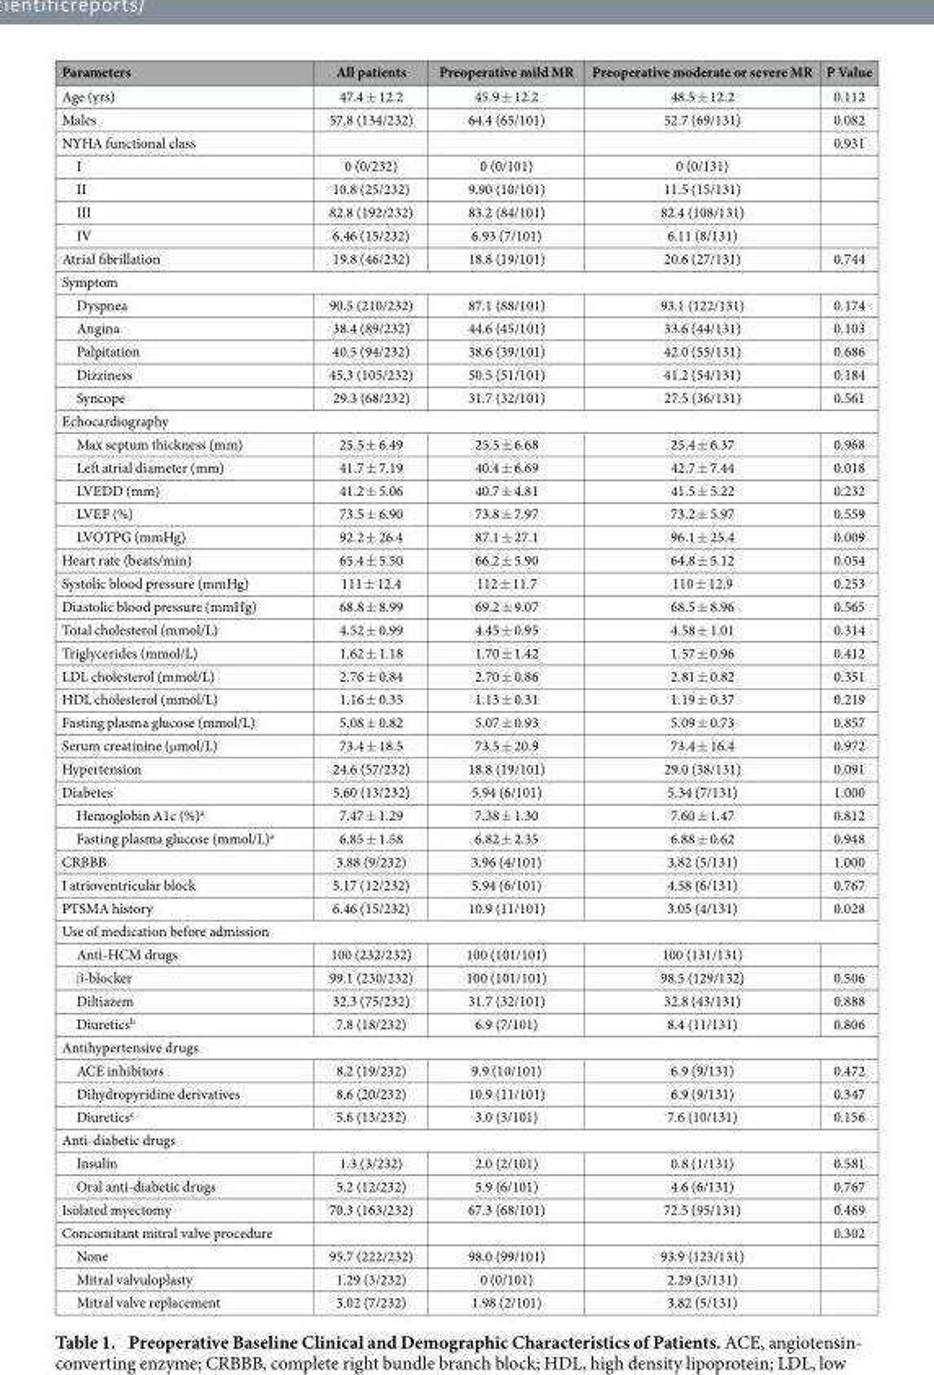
<table><thead><tr><td>Parameters</td><td>All patients</td><td>Preoperative mild MR</td><td>Preoperative moderate or severe MR</td><td>P Value</td></tr></thead><tbody><tr><td>Age (yrs)</td><td>47.4 ± 12.2</td><td>45.9 ± 12.2</td><td>48.5 ± 12.2</td><td>0.112</td></tr><tr><td>Males</td><td>57.8 (134/232)</td><td>64.4 (65/101)</td><td>52.7 (69/131)</td><td>0.082</td></tr><tr><td>NYHA functional class</td><td></td><td></td><td></td><td>0.931</td></tr><tr><td>I</td><td>0 (0/232)</td><td>0 (0/101)</td><td>0 (0/131)</td><td></td></tr><tr><td>II</td><td>10.8 (25/232)</td><td>9.90 (10/101)</td><td>11.5 (15/131)</td><td></td></tr><tr><td>III</td><td>82.8 (192/232)</td><td>83.2 (84/101)</td><td>82.4 (108/131)</td><td></td></tr><tr><td>IV</td><td>6.46 (15/232)</td><td>6.93 (7/101)</td><td>6.11 (8/131)</td><td></td></tr><tr><td>Atrial fibrillation</td><td>19.8 (46/232)</td><td>18.8 (19/101)</td><td>20.6 (27/131)</td><td>0.744</td></tr><tr><td colspan="5">Symptom</td></tr><tr><td>Dyspnea</td><td>90.5 (210/232)</td><td>87.1 (88/101)</td><td>93.1 (122/131)</td><td>0.174</td></tr><tr><td>Angina</td><td>38.4 (89/232)</td><td>44.6 (45/101)</td><td>33.6 (44/131)</td><td>0.103</td></tr><tr><td>Palpitation</td><td>40.5 (94/232)</td><td>38.6 (39/101)</td><td>42.0 (55/131)</td><td>0.686</td></tr><tr><td>Dizziness</td><td>45.3 (105/232)</td><td>50.5 (51/101)</td><td>41.2 (54/131)</td><td>0.184</td></tr><tr><td>Syncope</td><td>29.3 (68/232)</td><td>31.7 (32/101)</td><td>27.5 (36/131)</td><td>0.561</td></tr><tr><td colspan="5">Echocardiography</td></tr><tr><td>Max septum thickness (mm)</td><td>25.5 ± 6.49</td><td>25.5 ± 6.68</td><td>25.4 ± 6.37</td><td>0.968</td></tr><tr><td>Left atrial diameter (mm)</td><td>41.7 ± 7.19</td><td>40.4 ± 6.69</td><td>42.7 ± 7.44</td><td>0.018</td></tr><tr><td>LVEDD (mm)</td><td>41.2 ± 5.06</td><td>40.7 ± 4.81</td><td>41.5 ± 5.22</td><td>0.232</td></tr><tr><td>LVEF (%)</td><td>73.5 ± 6.90</td><td>73.8 ± 7.97</td><td>73.2 ± 5.97</td><td>0.559</td></tr><tr><td>LVOTPG (mmHg)</td><td>92.2 ± 26.4</td><td>87.1 ± 27.1</td><td>96.1 ± 25.4</td><td>0.009</td></tr><tr><td>Heart rate (beats/min)</td><td>65.4 ± 5.50</td><td>66.2 ± 5.90</td><td>64.8 ± 5.12</td><td>0.054</td></tr><tr><td>Systolic blood pressure (mmHg)</td><td>111 ± 12.4</td><td>112 ± 11.7</td><td>110 ± 12.9</td><td>0.253</td></tr><tr><td>Diastolic blood pressure (mmHg)</td><td>68.8 ± 8.99</td><td>69.2 ± 9.07</td><td>68.5 ± 8.96</td><td>0.565</td></tr><tr><td>Total cholesterol (mmol/L)</td><td>4.52 ± 0.99</td><td>4.45 ± 0.95</td><td>4.58 ± 1.01</td><td>0.314</td></tr><tr><td>Triglycerides (mmol/L)</td><td>1.62 ± 1.18</td><td>1.70 ± 1.42</td><td>1.57 ± 0.96</td><td>0.412</td></tr><tr><td>LDL cholesterol (mmol/L)</td><td>2.76 ± 0.84</td><td>2.70 ± 0.86</td><td>2.81 ± 0.82</td><td>0.351</td></tr><tr><td>HDL cholesterol (mmol/L)</td><td>1.16 ± 0.35</td><td>1.13 ± 0.31</td><td>1.19 ± 0.37</td><td>0.219</td></tr><tr><td>Fasting plasma glucose (mmol/L)</td><td>5.08 ± 0.82</td><td>5.07 ± 0.93</td><td>5.09 ± 0.73</td><td>0.857</td></tr><tr><td>Serum creatinine (μ mol/L)</td><td>73.4 ± 18.5</td><td>73.5 ± 20.9</td><td>73.4 ± 16.4</td><td>0.972</td></tr><tr><td>Hypertension</td><td>24.6 (57/232)</td><td>18.8 (19/101)</td><td>29.0 (38/131)</td><td>0.091</td></tr><tr><td>Diabetes</td><td>5.60 (13/232)</td><td>5.94 (6/101)</td><td>5.34 (7/131)</td><td>1.000</td></tr><tr><td>Hemoglobin A1c (%)<sup>a</sup></td><td>7.47 ± 1.29</td><td>7.38 ± 1.30</td><td>7.60 ± 1.47</td><td>0.812</td></tr><tr><td>Fasting plasma glucose (mmol/L)<sup>a</sup></td><td>6.85 ± 1.58</td><td>6.82 ± 2.35</td><td>6.88 ± 0.62</td><td>0.948</td></tr><tr><td>CRBBB</td><td>3.88 (9/232)</td><td>3.96 (4/101)</td><td>3.82 (5/131)</td><td>1.000</td></tr><tr><td>I atrioventricular block</td><td>5.17 (12/232)</td><td>5.94 (6/101)</td><td>4.58 (6/131)</td><td>0.767</td></tr><tr><td>PTSMA history</td><td>6.46 (15/232)</td><td>10.9 (11/101)</td><td>3.05 (4/131)</td><td>0.028</td></tr><tr><td colspan="5">Use of medication before admission</td></tr><tr><td>Anti-HCM drugs</td><td>100 (232/232)</td><td>100 (101/101)</td><td>100 (131/131)</td><td></td></tr><tr><td>β -blocker</td><td>99.1 (230/232)</td><td>100 (101/101)</td><td>98.5 (129/132)</td><td>0.506</td></tr><tr><td>Diltiazem</td><td>32.3 (75/232)</td><td>31.7 (32/101)</td><td>32.8 (43/131)</td><td>0.888</td></tr><tr><td>Diuretics<sup>b</sup></td><td>7.8 (18/232)</td><td>6.9 (7/101)</td><td>8.4 (11/131)</td><td>0.806</td></tr><tr><td colspan="5">Antihypertensive drugs</td></tr><tr><td>ACE inhibitors</td><td>8.2 (19/232)</td><td>9.9 (10/101)</td><td>6.9 (9/131)</td><td>0.472</td></tr><tr><td>Dihydropyridine derivatives</td><td>8.6 (20/232)</td><td>10.9 (11/101)</td><td>6.9 (9/131)</td><td>0.347</td></tr><tr><td>Diuretics<sup>c</sup></td><td>5.6 (13/232)</td><td>3.0 (3/101)</td><td>7.6 (10/131)</td><td>0.156</td></tr><tr><td colspan="5">Anti-diabetic drugs</td></tr><tr><td>Insulin</td><td>1.3 (3/232)</td><td>2.0 (2/101)</td><td>0.8 (1/131)</td><td>0.581</td></tr><tr><td>Oral anti-diabetic drugs</td><td>5.2 (12/232)</td><td>5.9 (6/101)</td><td>4.6 (6/131)</td><td>0.767</td></tr><tr><td>Isolated myectomy</td><td>70.3 (163/232)</td><td>67.3 (68/101)</td><td>72.5 (95/131)</td><td>0.469</td></tr><tr><td>Concomitant mitral valve procedure</td><td></td><td></td><td></td><td>0.302</td></tr><tr><td>None</td><td>95.7 (222/232)</td><td>98.0 (99/101)</td><td>93.9 (123/131)</td><td></td></tr><tr><td>Mitral valvuloplasty</td><td>1.29 (3/232)</td><td>0 (0/101)</td><td>2.29 (3/131)</td><td></td></tr><tr><td>Mitral valve replacement</td><td>3.02 (7/232)</td><td>1.98 (2/101)</td><td>3.82 (5/131)</td><td></td></tr></tbody></table>